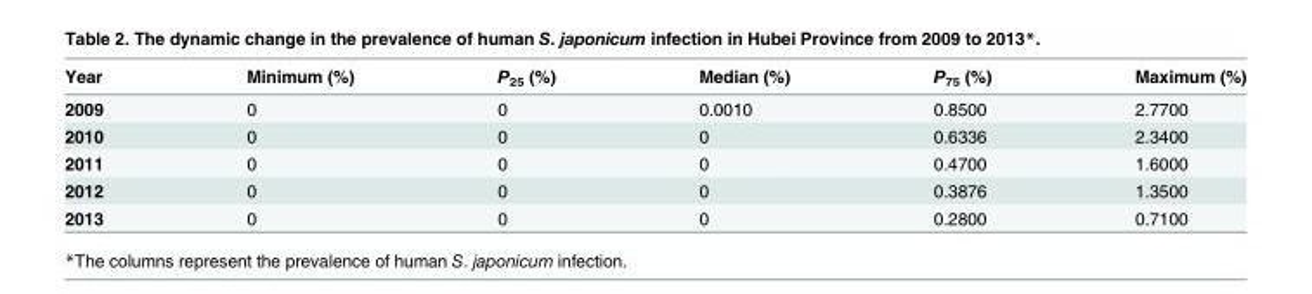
<table><thead><tr><td>Year</td><td>Minimum (%)</td><td>P<sub>25</sub> (%)</td><td>Median (%)</td><td>P<sub>75</sub> (%)</td><td>Maximum (%)</td></tr></thead><tbody><tr><td>2009</td><td>0</td><td>0</td><td>0.0010</td><td>0.8500</td><td>2.7700</td></tr><tr><td>2010</td><td>0</td><td>0</td><td>0</td><td>0.6336</td><td>2.3400</td></tr><tr><td>2011</td><td>0</td><td>0</td><td>0</td><td>0.4700</td><td>1.6000</td></tr><tr><td>2012</td><td>0</td><td>0</td><td>0</td><td>0.3876</td><td>1.3500</td></tr><tr><td>2013</td><td>0</td><td>0</td><td>0</td><td>0.2800</td><td>0.7100</td></tr></tbody></table>